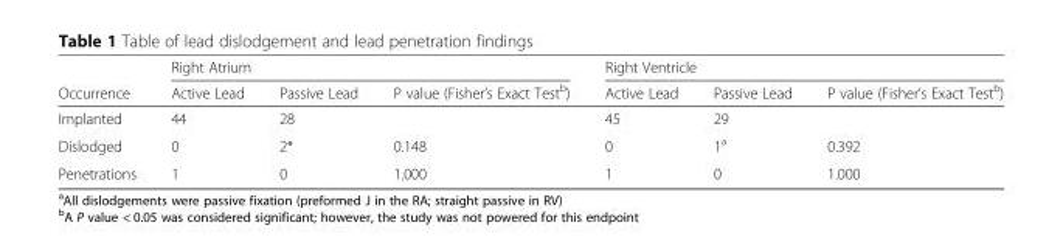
<table><thead><tr><td rowspan="2">Occurrence</td><td colspan="3">Right Atrium</td><td colspan="3">Right Ventricle</td></tr><tr><td>Active Lead</td><td>Passive Lead</td><td>P value (Fisher’s Exact Test<sup>b</sup>)</td><td>Active Lead</td><td>Passive Lead</td><td>P value (Fisher’s Exact Test<sup>b</sup>)</td></tr></thead><tbody><tr><td>Implanted</td><td>44</td><td>28</td><td></td><td>45</td><td>29</td><td></td></tr><tr><td>Dislodged</td><td>0</td><td>2*</td><td>0.148</td><td>0</td><td>1<sup>a</sup></td><td>0.392</td></tr><tr><td>Penetrations</td><td>1</td><td>0</td><td>1.000</td><td>1</td><td>0</td><td>1.000</td></tr></tbody></table>